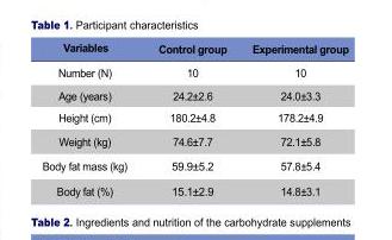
<table><thead><tr><td>Variables</td><td>Control group</td><td>Experimental group</td></tr></thead><tbody><tr><td>Number (N)</td><td>10</td><td>10</td></tr><tr><td>Age (years)</td><td>24.2±2.6</td><td>24.0±3.3</td></tr><tr><td>Height (cm)</td><td>180.2±4.8</td><td>178.2±4.9</td></tr><tr><td>Weight (kg)</td><td>74.6±7.7</td><td>72.1±5.8</td></tr><tr><td>Body fat mass (kg)</td><td>59.9±5.2</td><td>57.8±5.4</td></tr><tr><td>Body fat (%)</td><td>15.1±2.9</td><td>14.8±3.1</td></tr></tbody></table>